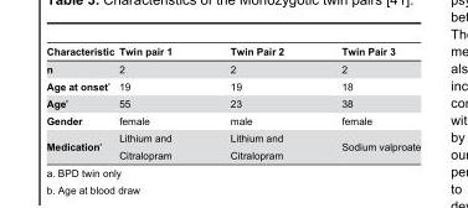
<table><thead><tr><td>Characteristic</td><td>Twin pair 1</td><td>Twin Pair 2</td><td>Twin Pair 3</td></tr></thead><tbody><tr><td>n</td><td>2</td><td>2</td><td>2</td></tr><tr><td>Age at onset <sup>a</sup></td><td>19</td><td>19</td><td>18</td></tr><tr><td>Age <sup>b</sup></td><td>55</td><td>23</td><td>38</td></tr><tr><td>Gender</td><td>female</td><td>male</td><td>female</td></tr><tr><td>Medication <sup>a</sup></td><td>Lithium and Citralopram</td><td>Lithium and Citralopram</td><td>Sodium valproate</td></tr></tbody></table>